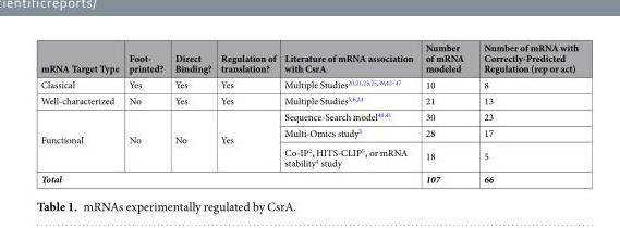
<table><thead><tr><td>mRNA Target Type</td><td>Foot- printed?</td><td>Direct Binding?</td><td>Regulation of translation?</td><td>Literature of mRNA association with CsrA</td><td>Number of mRNA modeled</td><td>Number of mRNA with Correctly-Predicted Regulation (rep or act)</td></tr></thead><tbody><tr><td>Classical</td><td>Yes</td><td>Yes</td><td>Yes</td><td>Multiple Studies<sup>20,21,23,25,39,42–47</sup></td><td>10</td><td>8</td></tr><tr><td>Well-characterized</td><td>No</td><td>Yes</td><td>Yes</td><td>Multiple Studies<sup>5,6,24</sup></td><td>21</td><td>13</td></tr><tr><td rowspan="3">Functional</td><td rowspan="3">No</td><td rowspan="3">No</td><td rowspan="3">Yes</td><td>Sequence-Search model<sup>40,41</sup></td><td>30</td><td>23</td></tr><tr><td>Multi-Omics study<sup>5</sup></td><td>28</td><td>17</td></tr><tr><td>Co-IP<sup>2</sup>, HITS-CLIP<sup>5</sup>, or mRNA stability<sup>4</sup> study</td><td>18</td><td>5</td></tr><tr><td colspan="5">Total</td><td>107</td><td>66</td></tr></tbody></table>